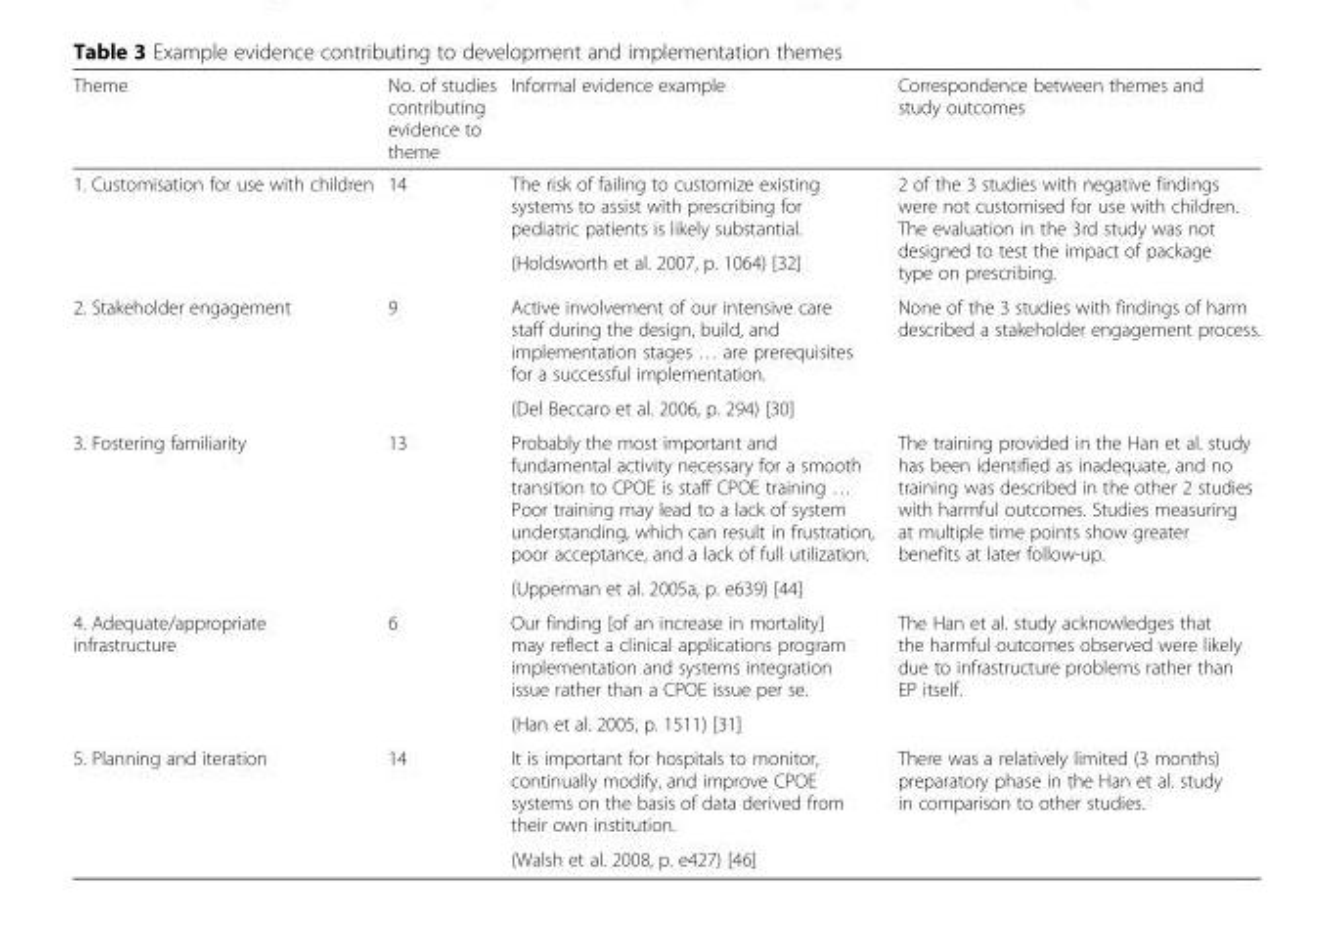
<table><thead><tr><td>Theme</td><td>No. of studies contributing evidence to theme</td><td>Informal evidence example</td><td>Correspondence between themes and study outcomes</td></tr></thead><tbody><tr><td rowspan="2">1. Customisation for use with children</td><td rowspan="2">14</td><td>The risk of failing to customize existing systems to assist with prescribing for pediatric patients is likely substantial.</td><td rowspan="2">2 of the 3 studies with negative findings were not customised for use with children. The evaluation in the 3rd study was not designed to test the impact of package type on prescribing.</td></tr><tr><td>(Holdsworth et al. 2007, p. 1064) [32]</td></tr><tr><td rowspan="2">2. Stakeholder engagement</td><td rowspan="2">9</td><td>Active involvement of our intensive care staff during the design, build, and implementation stages … are prerequisites for a successful implementation.</td><td rowspan="2">None of the 3 studies with findings of harm described a stakeholder engagement process.</td></tr><tr><td>(Del Beccaro et al. 2006, p. 294) [30]</td></tr><tr><td rowspan="2">3. Fostering familiarity</td><td rowspan="2">13</td><td>Probably the most important and fundamental activity necessary for a smooth transition to CPOE is staff CPOE training … Poor training may lead to a lack of system understanding, which can result in frustration, poor acceptance, and a lack of full utilization.</td><td rowspan="2">The training provided in the Han et al. study has been identified as inadequate, and no training was described in the other 2 studies with harmful outcomes. Studies measuring at multiple time points show greater benefits at later follow-up.</td></tr><tr><td>(Upperman et al. 2005a, p. e639) [44]</td></tr><tr><td rowspan="2">4. Adequate/appropriate infrastructure</td><td rowspan="2">6</td><td>Our finding [of an increase in mortality] may reflect a clinical applications program implementation and systems integration issue rather than a CPOE issue per se.</td><td rowspan="2">The Han et al. study acknowledges that the harmful outcomes observed were likely due to infrastructure problems rather than EP itself.</td></tr><tr><td>(Han et al. 2005, p. 1511) [31]</td></tr><tr><td rowspan="2">5. Planning and iteration</td><td rowspan="2">14</td><td>It is important for hospitals to monitor, continually modify, and improve CPOE systems on the basis of data derived from their own institution.</td><td rowspan="2">There was a relatively limited (3 months) preparatory phase in the Han et al. study in comparison to other studies.</td></tr><tr><td>(Walsh et al. 2008, p. e427) [46]</td></tr></tbody></table>